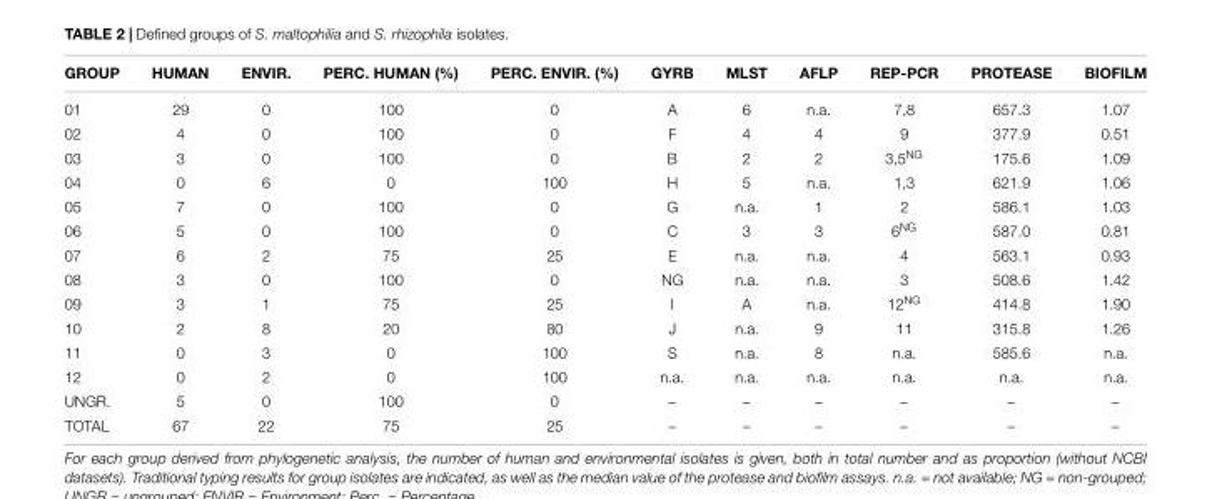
<table><thead><tr><td>GROUP</td><td>HUMAN</td><td>ENVIR.</td><td>PERC. HUMAN (%)</td><td>PERC. ENVIR. (%)</td><td>GYRB</td><td>MLST</td><td>AFLP</td><td>REP-PCR</td><td>PROTEASE</td><td>BIOFILM</td></tr></thead><tbody><tr><td>01</td><td>29</td><td>0</td><td>100</td><td>0</td><td>A</td><td>6</td><td>n.a.</td><td>7,8</td><td>657.3</td><td>1.07</td></tr><tr><td>02</td><td>4</td><td>0</td><td>100</td><td>0</td><td>F</td><td>4</td><td>4</td><td>9</td><td>377.9</td><td>0.51</td></tr><tr><td>03</td><td>3</td><td>0</td><td>100</td><td>0</td><td>B</td><td>2</td><td>2</td><td>3,5<sup>NG</sup></td><td>175.6</td><td>1.09</td></tr><tr><td>04</td><td>0</td><td>6</td><td>0</td><td>100</td><td>H</td><td>5</td><td>n.a.</td><td>1,3</td><td>621.9</td><td>1.06</td></tr><tr><td>05</td><td>7</td><td>0</td><td>100</td><td>0</td><td>G</td><td>n.a.</td><td>1</td><td>2</td><td>586.1</td><td>1.03</td></tr><tr><td>06</td><td>5</td><td>0</td><td>100</td><td>0</td><td>C</td><td>3</td><td>3</td><td>6<sup>NG</sup></td><td>587.0</td><td>0.81</td></tr><tr><td>07</td><td>6</td><td>2</td><td>75</td><td>25</td><td>E</td><td>n.a.</td><td>n.a.</td><td>4</td><td>563.1</td><td>0.93</td></tr><tr><td>08</td><td>3</td><td>0</td><td>100</td><td>0</td><td>NG</td><td>n.a.</td><td>n.a.</td><td>3</td><td>508.6</td><td>1.42</td></tr><tr><td>09</td><td>3</td><td>1</td><td>75</td><td>25</td><td>I</td><td>A</td><td>n.a.</td><td>12<sup>NG</sup></td><td>414.8</td><td>1.90</td></tr><tr><td>10</td><td>2</td><td>8</td><td>20</td><td>80</td><td>J</td><td>n.a.</td><td>9</td><td>11</td><td>315.8</td><td>1.26</td></tr><tr><td>11</td><td>0</td><td>3</td><td>0</td><td>100</td><td>S</td><td>n.a.</td><td>8</td><td>n.a.</td><td>585.6</td><td>n.a.</td></tr><tr><td>12</td><td>0</td><td>2</td><td>0</td><td>100</td><td>n.a.</td><td>n.a.</td><td>n.a.</td><td>n.a.</td><td>n.a.</td><td>n.a.</td></tr><tr><td>UNGR.</td><td>5</td><td>0</td><td>100</td><td>0</td><td>–</td><td>–</td><td>–</td><td>–</td><td>–</td><td>–</td></tr><tr><td>TOTAL</td><td>67</td><td>22</td><td>75</td><td>25</td><td>–</td><td>–</td><td>–</td><td>–</td><td>–</td><td>–</td></tr></tbody></table>